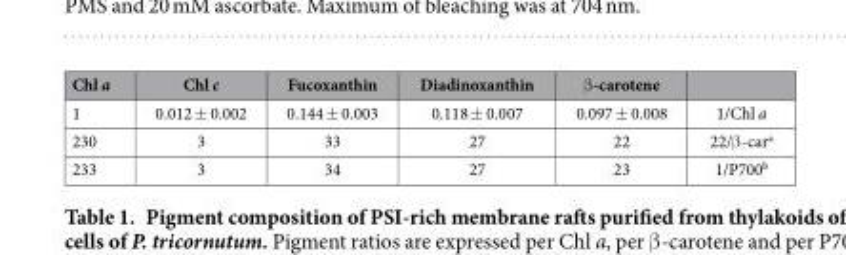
<table><thead><tr><td>Chl a</td><td>Chl c</td><td>Fucoxanthin</td><td>Diadinoxanthin</td><td>β -carotene</td><td></td></tr></thead><tbody><tr><td>1</td><td>0.012 ± 0.002</td><td>0.144 ± 0.003</td><td>0.118 ± 0.007</td><td>0.097 ± 0.008</td><td>1/Chl a</td></tr><tr><td>230</td><td>3</td><td>33</td><td>27</td><td>22</td><td>22/β -car<sup>a</sup></td></tr><tr><td>233</td><td>3</td><td>34</td><td>27</td><td>23</td><td>1/P700<sup>b</sup></td></tr></tbody></table>